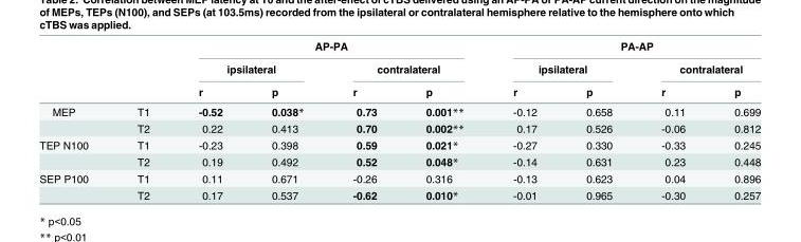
<table><thead><tr><td rowspan="3"></td><td rowspan="3"></td><td colspan="4">AP-PA</td><td colspan="4">PA-AP</td></tr><tr><td colspan="2">ipsilateral</td><td colspan="2">contralateral</td><td colspan="2">ipsilateral</td><td colspan="2">contralateral</td></tr><tr><td>r</td><td>p</td><td>r</td><td>p</td><td>r</td><td>p</td><td>r</td><td>p</td></tr></thead><tbody><tr><td rowspan="2">MEP</td><td>T1</td><td>-0.52</td><td>0.038*</td><td>0.73</td><td>0.001**</td><td>-0.12</td><td>0.658</td><td>0.11</td><td>0.699</td></tr><tr><td>T2</td><td>0.22</td><td>0.413</td><td>0.70</td><td>0.002**</td><td>0.17</td><td>0.526</td><td>-0.06</td><td>0.812</td></tr><tr><td rowspan="2">TEP N100</td><td>T1</td><td>-0.23</td><td>0.398</td><td>0.59</td><td>0.021*</td><td>-0.27</td><td>0.330</td><td>-0.33</td><td>0.245</td></tr><tr><td>T2</td><td>0.19</td><td>0.492</td><td>0.52</td><td>0.048*</td><td>-0.14</td><td>0.631</td><td>0.23</td><td>0.448</td></tr><tr><td rowspan="2">SEP P100</td><td>T1</td><td>0.11</td><td>0.671</td><td>-0.26</td><td>0.316</td><td>-0.13</td><td>0.623</td><td>0.04</td><td>0.896</td></tr><tr><td>T2</td><td>0.17</td><td>0.537</td><td>-0.62</td><td>0.010*</td><td>-0.01</td><td>0.965</td><td>-0.30</td><td>0.257</td></tr></tbody></table>